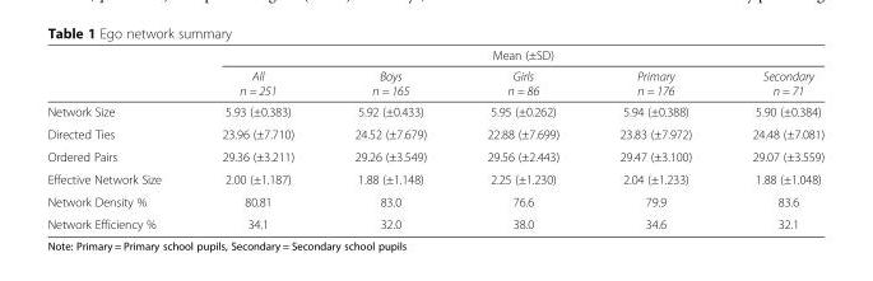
<table><thead><tr><td rowspan="2"></td><td colspan="5">Mean (±SD)</td></tr><tr><td>All n = 251</td><td>Boys n = 165</td><td>Girls n = 86</td><td>Primary n = 176</td><td>Secondary n = 71</td></tr></thead><tbody><tr><td>Network Size</td><td>5.93 (±0.383)</td><td>5.92 (±0.433)</td><td>5.95 (±0.262)</td><td>5.94 (±0.388)</td><td>5.90 (±0.384)</td></tr><tr><td>Directed Ties</td><td>23.96 (±7.710)</td><td>24.52 (±7.679)</td><td>22.88 (±7.699)</td><td>23.83 (±7.972)</td><td>24.48 (±7.081)</td></tr><tr><td>Ordered Pairs</td><td>29.36 (±3.211)</td><td>29.26 (±3.549)</td><td>29.56 (±2.443)</td><td>29.47 (±3.100)</td><td>29.07 (±3.559)</td></tr><tr><td>Effective Network Size</td><td>2.00 (±1.187)</td><td>1.88 (±1.148)</td><td>2.25 (±1.230)</td><td>2.04 (±1.233)</td><td>1.88 (±1.048)</td></tr><tr><td>Network Density %</td><td>80.81</td><td>83.0</td><td>76.6</td><td>79.9</td><td>83.6</td></tr><tr><td>Network Efficiency %</td><td>34.1</td><td>32.0</td><td>38.0</td><td>34.6</td><td>32.1</td></tr></tbody></table>